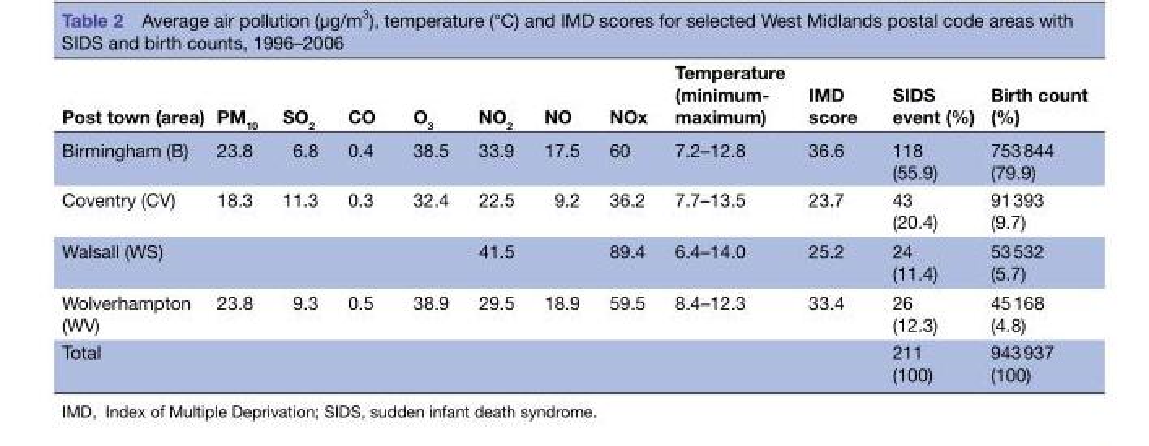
<table><thead><tr><td>Post town (area)</td><td>PM<sub>10</sub></td><td>SO<sub>2</sub></td><td>CO</td><td>O<sub>3</sub></td><td>NO<sub>2</sub></td><td>NO</td><td>NOx</td><td>Temperature (minimum- maximum)</td><td>IMD score</td><td>SIDS event (%)</td><td>Birth count (%)</td></tr></thead><tbody><tr><td>Birmingham (B)</td><td>23.8</td><td>6.8</td><td>0.4</td><td>38.5</td><td>33.9</td><td>17.5</td><td>60</td><td>7.2–12.8</td><td>36.6</td><td>118 (55.9)</td><td>753 844 (79.9)</td></tr><tr><td>Coventry (CV)</td><td>18.3</td><td>11.3</td><td>0.3</td><td>32.4</td><td>22.5</td><td>9.2</td><td>36.2</td><td>7.7–13.5</td><td>23.7</td><td>43 (20.4)</td><td>91 393 (9.7)</td></tr><tr><td>Walsall (WS)</td><td></td><td></td><td></td><td></td><td>41.5</td><td></td><td>89.4</td><td>6.4–14.0</td><td>25.2</td><td>24 (11.4)</td><td>53 532 (5.7)</td></tr><tr><td>Wolverhampton (WV)</td><td>23.8</td><td>9.3</td><td>0.5</td><td>38.9</td><td>29.5</td><td>18.9</td><td>59.5</td><td>8.4–12.3</td><td>33.4</td><td>26 (12.3)</td><td>45 168 (4.8)</td></tr><tr><td>Total</td><td></td><td></td><td></td><td></td><td></td><td></td><td></td><td></td><td></td><td>211 (100)</td><td>943 937 (100)</td></tr></tbody></table>